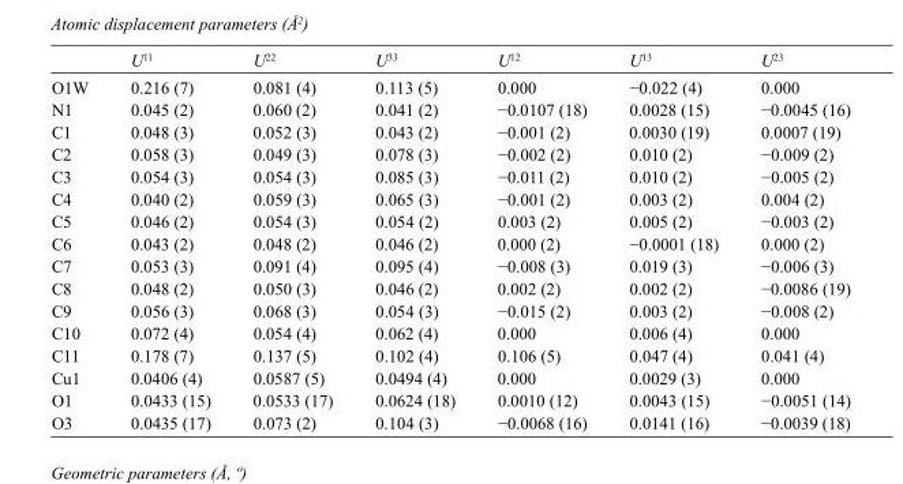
<table><thead><tr><td></td><td>U<sup>11</sup></td><td>U<sup>22</sup></td><td>U<sup>33</sup></td><td>U<sup>12</sup></td><td>U<sup>13</sup></td><td>U<sup>23</sup></td></tr></thead><tbody><tr><td>O1W</td><td>0.216 (7)</td><td>0.081 (4)</td><td>0.113 (5)</td><td>0.000</td><td>−0.022 (4)</td><td>0.000</td></tr><tr><td>N1</td><td>0.045 (2)</td><td>0.060 (2)</td><td>0.041 (2)</td><td>−0.0107 (18)</td><td>0.0028 (15)</td><td>−0.0045 (16)</td></tr><tr><td>C1</td><td>0.048 (3)</td><td>0.052 (3)</td><td>0.043 (2)</td><td>−0.001 (2)</td><td>0.0030 (19)</td><td>0.0007 (19)</td></tr><tr><td>C2</td><td>0.058 (3)</td><td>0.049 (3)</td><td>0.078 (3)</td><td>−0.002 (2)</td><td>0.010 (2)</td><td>−0.009 (2)</td></tr><tr><td>C3</td><td>0.054 (3)</td><td>0.054 (3)</td><td>0.085 (3)</td><td>−0.011 (2)</td><td>0.010 (2)</td><td>−0.005 (2)</td></tr><tr><td>C4</td><td>0.040 (2)</td><td>0.059 (3)</td><td>0.065 (3)</td><td>−0.001 (2)</td><td>0.003 (2)</td><td>0.004 (2)</td></tr><tr><td>C5</td><td>0.046 (2)</td><td>0.054 (3)</td><td>0.054 (2)</td><td>0.003 (2)</td><td>0.005 (2)</td><td>−0.003 (2)</td></tr><tr><td>C6</td><td>0.043 (2)</td><td>0.048 (2)</td><td>0.046 (2)</td><td>0.000 (2)</td><td>−0.0001 (18)</td><td>0.000 (2)</td></tr><tr><td>C7</td><td>0.053 (3)</td><td>0.091 (4)</td><td>0.095 (4)</td><td>−0.008 (3)</td><td>0.019 (3)</td><td>−0.006 (3)</td></tr><tr><td>C8</td><td>0.048 (2)</td><td>0.050 (3)</td><td>0.046 (2)</td><td>0.002 (2)</td><td>0.002 (2)</td><td>−0.0086 (19)</td></tr><tr><td>C9</td><td>0.056 (3)</td><td>0.068 (3)</td><td>0.054 (3)</td><td>−0.015 (2)</td><td>0.003 (2)</td><td>−0.008 (2)</td></tr><tr><td>C10</td><td>0.072 (4)</td><td>0.054 (4)</td><td>0.062 (4)</td><td>0.000</td><td>0.006 (4)</td><td>0.000</td></tr><tr><td>C11</td><td>0.178 (7)</td><td>0.137 (5)</td><td>0.102 (4)</td><td>0.106 (5)</td><td>0.047 (4)</td><td>0.041 (4)</td></tr><tr><td>Cu1</td><td>0.0406 (4)</td><td>0.0587 (5)</td><td>0.0494 (4)</td><td>0.000</td><td>0.0029 (3)</td><td>0.000</td></tr><tr><td>O1</td><td>0.0433 (15)</td><td>0.0533 (17)</td><td>0.0624 (18)</td><td>0.0010 (12)</td><td>0.0043 (15)</td><td>−0.0051 (14)</td></tr><tr><td>O3</td><td>0.0435 (17)</td><td>0.073 (2)</td><td>0.104 (3)</td><td>−0.0068 (16)</td><td>0.0141 (16)</td><td>−0.0039 (18)</td></tr></tbody></table>